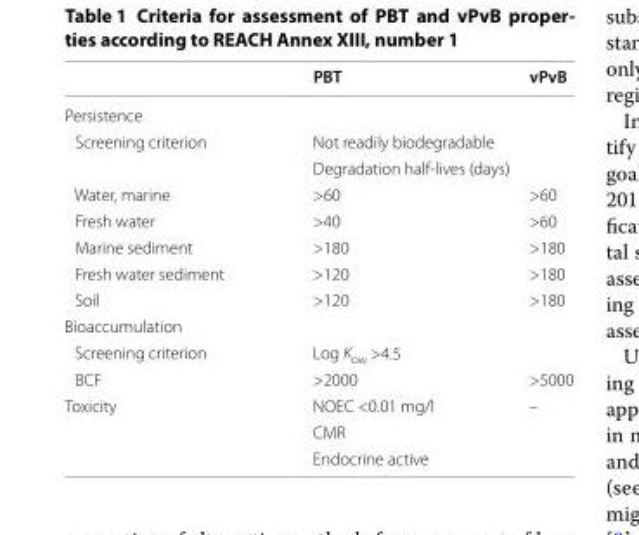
<table><thead><tr><td></td><td>PBT</td><td>vPvB</td></tr></thead><tbody><tr><td colspan="3">Persistence</td></tr><tr><td rowspan="2">Screening criterion</td><td colspan="2">Not readily biodegradable</td></tr><tr><td colspan="2">Degradation half-lives (days)</td></tr><tr><td>Water, marine</td><td>&gt;60</td><td>&gt;60</td></tr><tr><td>Fresh water</td><td>&gt;40</td><td>&gt;60</td></tr><tr><td>Marine sediment</td><td>&gt;180</td><td>&gt;180</td></tr><tr><td>Fresh water sediment</td><td>&gt;120</td><td>&gt;180</td></tr><tr><td>Soil</td><td>&gt;120</td><td>&gt;180</td></tr><tr><td colspan="3">Bioaccumulation</td></tr><tr><td>Screening criterion</td><td>Log K<sub>ow</sub> &gt;4.5</td><td></td></tr><tr><td>BCF</td><td>&gt;2000</td><td>&gt;5000</td></tr><tr><td rowspan="3">Toxicity</td><td>NOEC &lt;0.01 mg/l</td><td>–</td></tr><tr><td>CMR</td><td></td></tr><tr><td>Endocrine active</td><td></td></tr></tbody></table>